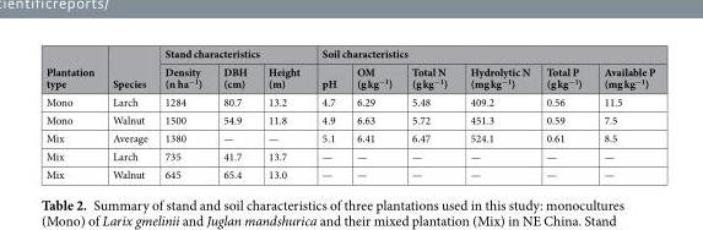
<table><thead><tr><td rowspan="2">Plantation type</td><td rowspan="2">Species</td><td colspan="3">Stand characteristics</td><td colspan="6">Soil characteristics</td></tr><tr><td>Density (n ha<sup>−1</sup>)</td><td>DBH (cm)</td><td>Height (m)</td><td>pH</td><td>OM (g kg<sup>−1</sup>)</td><td>Total N (g kg<sup>−1</sup>)</td><td>Hydrolytic N (mg kg<sup>−1</sup>)</td><td>Total P (g kg<sup>−1</sup>)</td><td>Available P (mg kg<sup>−1</sup>)</td></tr></thead><tbody><tr><td>Mono</td><td>Larch</td><td>1284</td><td>80.7</td><td>13.2</td><td>4.7</td><td>6.29</td><td>5.48</td><td>409.2</td><td>0.56</td><td>11.5</td></tr><tr><td>Mono</td><td>Walnut</td><td>1500</td><td>54.9</td><td>11.8</td><td>4.9</td><td>6.63</td><td>5.72</td><td>451.3</td><td>0.59</td><td>7.5</td></tr><tr><td>Mix</td><td>Average</td><td>1380</td><td>—</td><td>—</td><td>5.1</td><td>6.41</td><td>6.47</td><td>524.1</td><td>0.61</td><td>8.5</td></tr><tr><td>Mix</td><td>Larch</td><td>735</td><td>41.7</td><td>13.7</td><td>—</td><td>—</td><td>—</td><td>—</td><td>—</td><td>—</td></tr><tr><td>Mix</td><td>Walnut</td><td>645</td><td>65.4</td><td>13.0</td><td>—</td><td>—</td><td>—</td><td>—</td><td>—</td><td>—</td></tr></tbody></table>